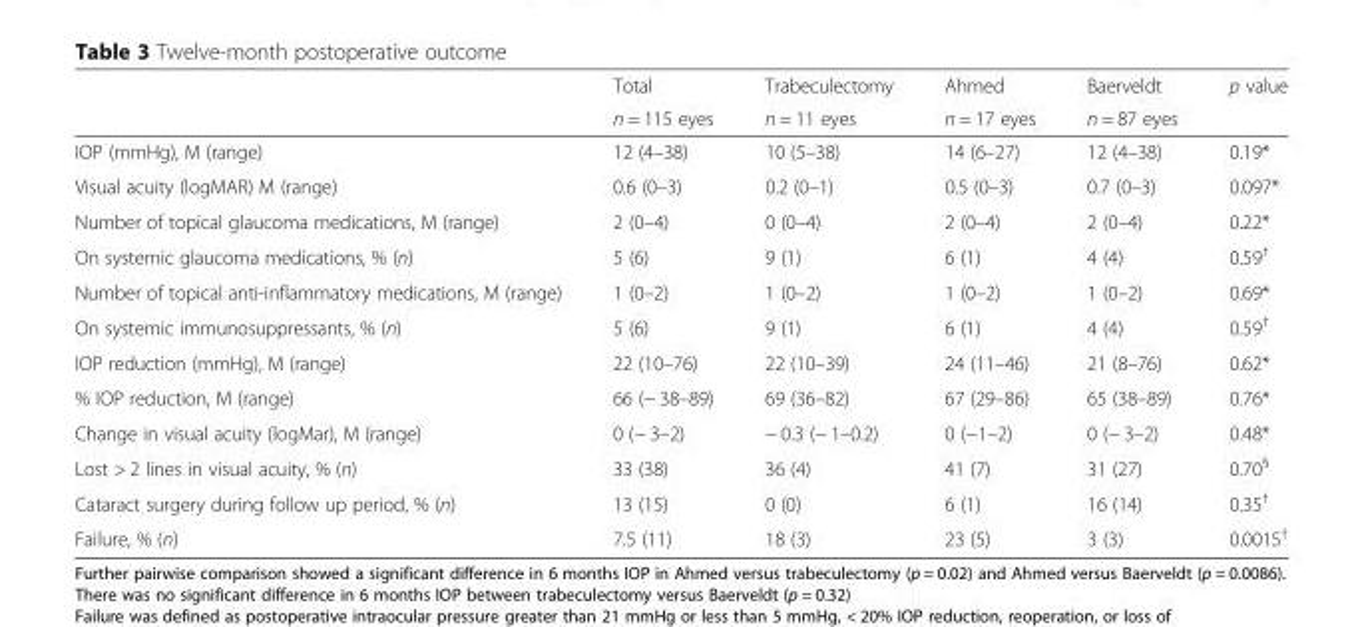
<table><thead><tr><td rowspan="2"></td><td rowspan="2">Total n = 115 eyes</td><td rowspan="2">Trabeculectomy n = 11 eyes</td><td rowspan="2">Ahmed n = 17 eyes</td><td rowspan="2">Baerveldt n = 87 eyes</td><td rowspan="2">p value</td></tr><tr></tr></thead><tbody><tr><td>IOP (mmHg), M (range)</td><td>12 (4–38)</td><td>10 (5–38)</td><td>14 (6–27)</td><td>12 (4–38)</td><td>0.19*</td></tr><tr><td>Visual acuity (logMAR) M (range)</td><td>0.6 (0–3)</td><td>0.2 (0–1)</td><td>0.5 (0–3)</td><td>0.7 (0–3)</td><td>0.097*</td></tr><tr><td>Number of topical glaucoma medications, M (range)</td><td>2 (0–4)</td><td>0 (0–4)</td><td>2 (0–4)</td><td>2 (0–4)</td><td>0.22*</td></tr><tr><td>On systemic glaucoma medications, % (n)</td><td>5 (6)</td><td>9 (1)</td><td>6 (1)</td><td>4 (4)</td><td>0.59<sup>†</sup></td></tr><tr><td>Number of topical anti-inflammatory medications, M (range)</td><td>1 (0–2)</td><td>1 (0–2)</td><td>1 (0–2)</td><td>1 (0–2)</td><td>0.69*</td></tr><tr><td>On systemic immunosuppressants, % (n)</td><td>5 (6)</td><td>9 (1)</td><td>6 (1)</td><td>4 (4)</td><td>0.59<sup>†</sup></td></tr><tr><td>IOP reduction (mmHg), M (range)</td><td>22 (10–76)</td><td>22 (10–39)</td><td>24 (11–46)</td><td>21 (8–76)</td><td>0.62*</td></tr><tr><td>% IOP reduction, M (range)</td><td>66 (− 38–89)</td><td>69 (36–82)</td><td>67 (29–86)</td><td>65 (38–89)</td><td>0.76*</td></tr><tr><td>Change in visual acuity (logMar), M (range)</td><td>0 (− 3–2)</td><td>− 0.3 (− 1–0.2)</td><td>0 (−1–2)</td><td>0 (− 3–2)</td><td>0.48*</td></tr><tr><td>Lost &gt; 2 lines in visual acuity, % (n)</td><td>33 (38)</td><td>36 (4)</td><td>41 (7)</td><td>31 (27)</td><td>0.70<sup>§</sup></td></tr><tr><td>Cataract surgery during follow up period, % (n)</td><td>13 (15)</td><td>0 (0)</td><td>6 (1)</td><td>16 (14)</td><td>0.35<sup>†</sup></td></tr><tr><td>Failure, % (n)</td><td>7.5 (11)</td><td>18 (3)</td><td>23 (5)</td><td>3 (3)</td><td>0.0015<sup>†</sup></td></tr></tbody></table>